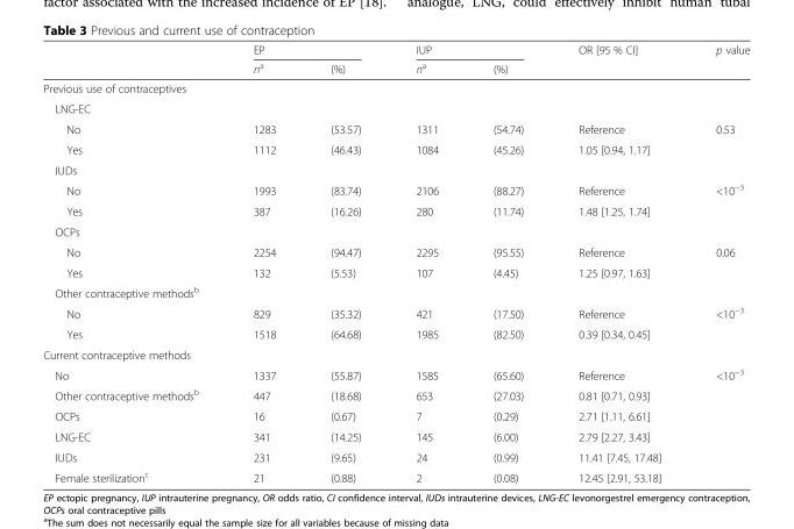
<table><thead><tr><td rowspan="2"></td><td colspan="2">EP</td><td colspan="2">IUP</td><td rowspan="2">OR [95 % CI]</td><td rowspan="2">p value</td></tr><tr><td>n<sup>a</sup></td><td>(%)</td><td>n<sup>a</sup></td><td>(%)</td></tr></thead><tbody><tr><td colspan="7">Previous use of contraceptives</td></tr><tr><td colspan="7">LNG-EC</td></tr><tr><td>No</td><td>1283</td><td>(53.57)</td><td>1311</td><td>(54.74)</td><td>Reference</td><td rowspan="2">0.53</td></tr><tr><td>Yes</td><td>1112</td><td>(46.43)</td><td>1084</td><td>(45.26)</td><td>1.05 [0.94, 1.17]</td></tr><tr><td colspan="7">IUDs</td></tr><tr><td>No</td><td>1993</td><td>(83.74)</td><td>2106</td><td>(88.27)</td><td>Reference</td><td rowspan="2">&lt;10<sup>−3</sup></td></tr><tr><td>Yes</td><td>387</td><td>(16.26)</td><td>280</td><td>(11.74)</td><td>1.48 [1.25, 1.74]</td></tr><tr><td colspan="7">OCPs</td></tr><tr><td>No</td><td>2254</td><td>(94.47)</td><td>2295</td><td>(95.55)</td><td>Reference</td><td rowspan="2">0.06</td></tr><tr><td>Yes</td><td>132</td><td>(5.53)</td><td>107</td><td>(4.45)</td><td>1.25 [0.97, 1.63]</td></tr><tr><td colspan="7">Other contraceptive methods<sup>b</sup></td></tr><tr><td>No</td><td>829</td><td>(35.32)</td><td>421</td><td>(17.50)</td><td>Reference</td><td rowspan="2">&lt;10<sup>−3</sup></td></tr><tr><td>Yes</td><td>1518</td><td>(64.68)</td><td>1985</td><td>(82.50)</td><td>0.39 [0.34, 0.45]</td></tr><tr><td colspan="7">Current contraceptive methods</td></tr><tr><td>No</td><td>1337</td><td>(55.87)</td><td>1585</td><td>(65.60)</td><td>Reference</td><td rowspan="6">&lt;10<sup>−3</sup></td></tr><tr><td>Other contraceptive methods<sup>b</sup></td><td>447</td><td>(18.68)</td><td>653</td><td>(27.03)</td><td>0.81 [0.71, 0.93]</td></tr><tr><td>OCPs</td><td>16</td><td>(0.67)</td><td>7</td><td>(0.29)</td><td>2.71 [1.11, 6.61]</td></tr><tr><td>LNG-EC</td><td>341</td><td>(14.25)</td><td>145</td><td>(6.00)</td><td>2.79 [2.27, 3.43]</td></tr><tr><td>IUDs</td><td>231</td><td>(9.65)</td><td>24</td><td>(0.99)</td><td>11.41 [7.45, 17.48]</td></tr><tr><td>Female sterilization<sup>c</sup></td><td>21</td><td>(0.88)</td><td>2</td><td>(0.08)</td><td>12.45 [2.91, 53.18]</td></tr></tbody></table>